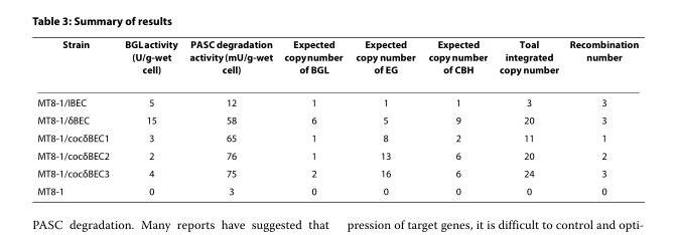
<table><thead><tr><td>Strain</td><td>BGL activity (U/g-wet cell)</td><td>PASC degradation activity (mU/g-wet cell)</td><td>Expected copy number of BGL</td><td>Expected copy number of EG</td><td>Expected copy number of CBH</td><td>Toal integrated copy number</td><td>Recombination number</td></tr></thead><tbody><tr><td>MT8-1/IBEC</td><td>5</td><td>12</td><td>1</td><td>1</td><td>1</td><td>3</td><td>3</td></tr><tr><td>MT8-1/δBEC</td><td>15</td><td>58</td><td>6</td><td>5</td><td>9</td><td>20</td><td>3</td></tr><tr><td>MT8-1/cocδBEC1</td><td>3</td><td>65</td><td>1</td><td>8</td><td>2</td><td>11</td><td>1</td></tr><tr><td>MT8-1/cocδBEC2</td><td>2</td><td>76</td><td>1</td><td>13</td><td>6</td><td>20</td><td>2</td></tr><tr><td>MT8-1/cocδBEC3</td><td>4</td><td>75</td><td>2</td><td>16</td><td>6</td><td>24</td><td>3</td></tr><tr><td>MT8-1</td><td>0</td><td>3</td><td>0</td><td>0</td><td>0</td><td>0</td><td>0</td></tr></tbody></table>